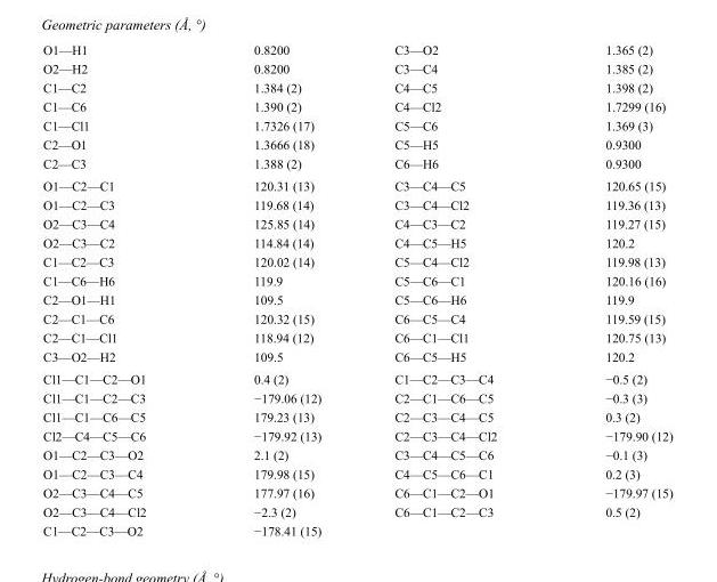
<table><tbody><tr><td>O1—H1</td><td>0.8200</td><td>C3—O2</td><td>1.365 (2)</td></tr><tr><td>O2—H2</td><td>0.8200</td><td>C3—C4</td><td>1.385 (2)</td></tr><tr><td>C1—C2</td><td>1.384 (2)</td><td>C4—C5</td><td>1.398 (2)</td></tr><tr><td>C1—C6</td><td>1.390 (2)</td><td>C4—Cl2</td><td>1.7299 (16)</td></tr><tr><td>C1—Cl1</td><td>1.7326 (17)</td><td>C5—C6</td><td>1.369 (3)</td></tr><tr><td>C2—O1</td><td>1.3666 (18)</td><td>C5—H5</td><td>0.9300</td></tr><tr><td>C2—C3</td><td>1.388 (2)</td><td>C6—H6</td><td>0.9300</td></tr><tr><td>O1—C2—C1</td><td>120.31 (13)</td><td>C3—C4—C5</td><td>120.65 (15)</td></tr><tr><td>O1—C2—C3</td><td>119.68 (14)</td><td>C3—C4—Cl2</td><td>119.36 (13)</td></tr><tr><td>O2—C3—C4</td><td>125.85 (14)</td><td>C4—C3—C2</td><td>119.27 (15)</td></tr><tr><td>O2—C3—C2</td><td>114.84 (14)</td><td>C4—C5—H5</td><td>120.2</td></tr><tr><td>C1—C2—C3</td><td>120.02 (14)</td><td>C5—C4—Cl2</td><td>119.98 (13)</td></tr><tr><td>C1—C6—H6</td><td>119.9</td><td>C5—C6—C1</td><td>120.16 (16)</td></tr><tr><td>C2—O1—H1</td><td>109.5</td><td>C5—C6—H6</td><td>119.9</td></tr><tr><td>C2—C1—C6</td><td>120.32 (15)</td><td>C6—C5—C4</td><td>119.59 (15)</td></tr><tr><td>C2—C1—Cl1</td><td>118.94 (12)</td><td>C6—C1—Cl1</td><td>120.75 (13)</td></tr><tr><td>C3—O2—H2</td><td>109.5</td><td>C6—C5—H5</td><td>120.2</td></tr><tr><td>Cl1—C1—C2—O1</td><td>0.4 (2)</td><td>C1—C2—C3—C4</td><td>−0.5 (2)</td></tr><tr><td>Cl1—C1—C2—C3</td><td>−179.06 (12)</td><td>C2—C1—C6—C5</td><td>−0.3 (3)</td></tr><tr><td>Cl1—C1—C6—C5</td><td>179.23 (13)</td><td>C2—C3—C4—C5</td><td>0.3 (2)</td></tr><tr><td>Cl2—C4—C5—C6</td><td>−179.92 (13)</td><td>C2—C3—C4—Cl2</td><td>−179.90 (12)</td></tr><tr><td>O1—C2—C3—O2</td><td>2.1 (2)</td><td>C3—C4—C5—C6</td><td>−0.1 (3)</td></tr><tr><td>O1—C2—C3—C4</td><td>179.98 (15)</td><td>C4—C5—C6—C1</td><td>0.2 (3)</td></tr><tr><td>O2—C3—C4—C5</td><td>177.97 (16)</td><td>C6—C1—C2—O1</td><td>−179.97 (15)</td></tr><tr><td>O2—C3—C4—Cl2</td><td>−2.3 (2)</td><td>C6—C1—C2—C3</td><td>0.5 (2)</td></tr><tr><td>C1—C2—C3—O2</td><td>−178.41 (15)</td><td></td><td></td></tr></tbody></table>